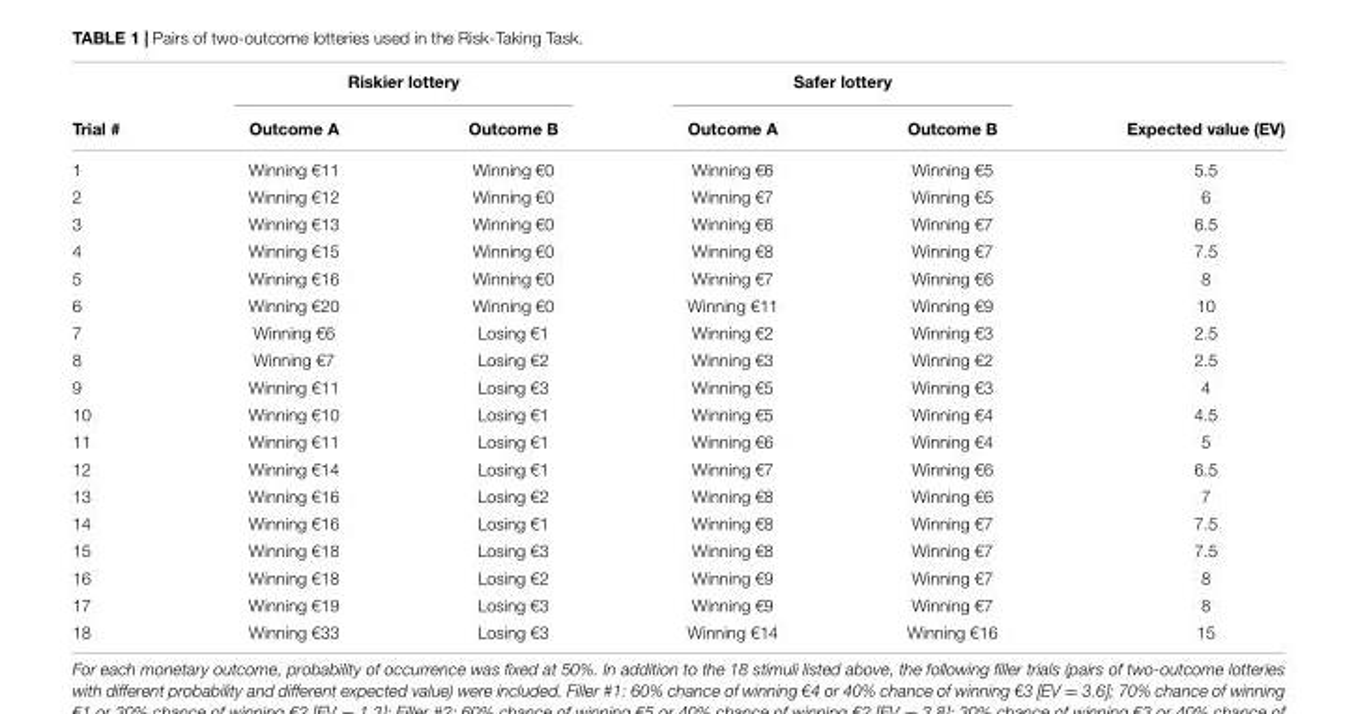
<table><thead><tr><td rowspan="2">Trial #</td><td colspan="2">Riskier lottery</td><td colspan="2">Safer lottery</td><td rowspan="2">Expected value (EV)</td></tr><tr><td>Outcome A</td><td>Outcome B</td><td>Outcome A</td><td>Outcome B</td></tr></thead><tbody><tr><td>1</td><td>Winning €11</td><td>Winning €0</td><td>Winning €6</td><td>Winning €5</td><td>5.5</td></tr><tr><td>2</td><td>Winning €12</td><td>Winning €0</td><td>Winning €7</td><td>Winning €5</td><td>6</td></tr><tr><td>3</td><td>Winning €13</td><td>Winning €0</td><td>Winning €6</td><td>Winning €7</td><td>6.5</td></tr><tr><td>4</td><td>Winning €15</td><td>Winning €0</td><td>Winning €8</td><td>Winning €7</td><td>7.5</td></tr><tr><td>5</td><td>Winning €16</td><td>Winning €0</td><td>Winning €7</td><td>Winning €6</td><td>8</td></tr><tr><td>6</td><td>Winning €20</td><td>Winning €0</td><td>Winning €11</td><td>Winning €9</td><td>10</td></tr><tr><td>7</td><td>Winning €6</td><td>Losing €1</td><td>Winning €2</td><td>Winning €3</td><td>2.5</td></tr><tr><td>8</td><td>Winning €7</td><td>Losing €2</td><td>Winning €3</td><td>Winning €2</td><td>2.5</td></tr><tr><td>9</td><td>Winning €11</td><td>Losing €3</td><td>Winning €5</td><td>Winning €3</td><td>4</td></tr><tr><td>10</td><td>Winning €10</td><td>Losing €1</td><td>Winning €5</td><td>Winning €4</td><td>4.5</td></tr><tr><td>11</td><td>Winning €11</td><td>Losing €1</td><td>Winning €6</td><td>Winning €4</td><td>5</td></tr><tr><td>12</td><td>Winning €14</td><td>Losing €1</td><td>Winning €7</td><td>Winning €6</td><td>6.5</td></tr><tr><td>13</td><td>Winning €16</td><td>Losing €2</td><td>Winning €8</td><td>Winning €6</td><td>7</td></tr><tr><td>14</td><td>Winning €16</td><td>Losing €1</td><td>Winning €8</td><td>Winning €7</td><td>7.5</td></tr><tr><td>15</td><td>Winning €18</td><td>Losing €3</td><td>Winning €8</td><td>Winning €7</td><td>7.5</td></tr><tr><td>16</td><td>Winning €18</td><td>Losing €2</td><td>Winning €9</td><td>Winning €7</td><td>8</td></tr><tr><td>17</td><td>Winning €19</td><td>Losing €3</td><td>Winning €9</td><td>Winning €7</td><td>8</td></tr><tr><td>18</td><td>Winning €33</td><td>Losing €3</td><td>Winning €14</td><td>Winning €16</td><td>15</td></tr></tbody></table>